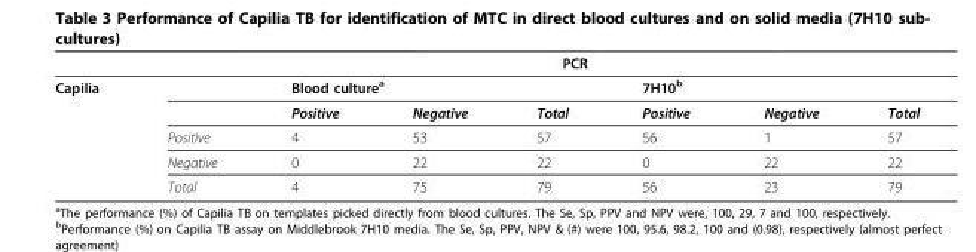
<table><thead><tr><td rowspan="3">Capilia</td><td colspan="7">PCR</td></tr><tr><td rowspan="2"></td><td colspan="3">Blood culture<sup>a</sup></td><td colspan="3">7H10<sup>b</sup></td></tr><tr><td>Positive</td><td>Negative</td><td>Total</td><td>Positive</td><td>Negative</td><td>Total</td></tr></thead><tbody><tr><td></td><td>Positive</td><td>4</td><td>53</td><td>57</td><td>56</td><td>1</td><td>57</td></tr><tr><td></td><td>Negative</td><td>0</td><td>22</td><td>22</td><td>0</td><td>22</td><td>22</td></tr><tr><td></td><td>Total</td><td>4</td><td>75</td><td>79</td><td>56</td><td>23</td><td>79</td></tr></tbody></table>